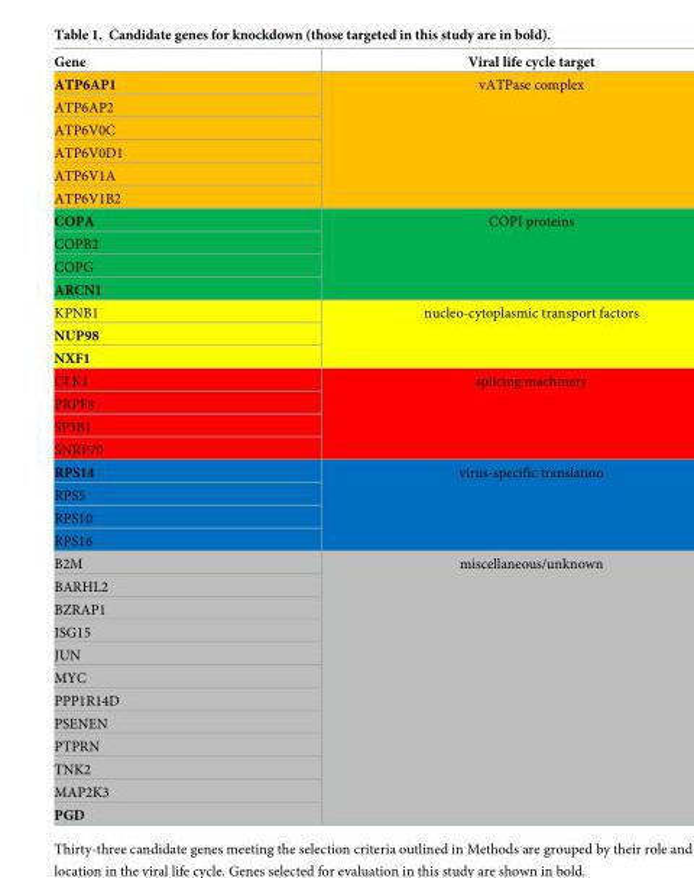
<table><thead><tr><td>Gene</td><td>Viral life cycle target</td></tr></thead><tbody><tr><td>ATP6AP1</td><td rowspan="6">vATPase complex</td></tr><tr><td>ATP6AP2</td></tr><tr><td>ATP6V0C</td></tr><tr><td>ATP6V0D1</td></tr><tr><td>ATP6V1A</td></tr><tr><td>ATP6V1B2</td></tr><tr><td>COPA</td><td rowspan="4">COPI proteins</td></tr><tr><td>COPB2</td></tr><tr><td>COPG</td></tr><tr><td>ARCN1</td></tr><tr><td>KPNB1</td><td rowspan="3">nucleo-cytoplasmic transport factors</td></tr><tr><td>NUP98</td></tr><tr><td>NXF1</td></tr><tr><td>CLK1</td><td rowspan="4">splicing machinery</td></tr><tr><td>PRPF8</td></tr><tr><td>SF3B1</td></tr><tr><td>SNRP70</td></tr><tr><td>RPS14</td><td rowspan="4">virus-specific translation</td></tr><tr><td>RPS5</td></tr><tr><td>RPS10</td></tr><tr><td>RPS16</td></tr><tr><td>B2M</td><td rowspan="12">miscellaneous/unknown</td></tr><tr><td>BARHL2</td></tr><tr><td>BZRAP1</td></tr><tr><td>ISG15</td></tr><tr><td>JUN</td></tr><tr><td>MYC</td></tr><tr><td>PPP1R14D</td></tr><tr><td>PSENEN</td></tr><tr><td>PTPRN</td></tr><tr><td>TNK2</td></tr><tr><td>MAP2K3</td></tr><tr><td>PGD</td></tr></tbody></table>